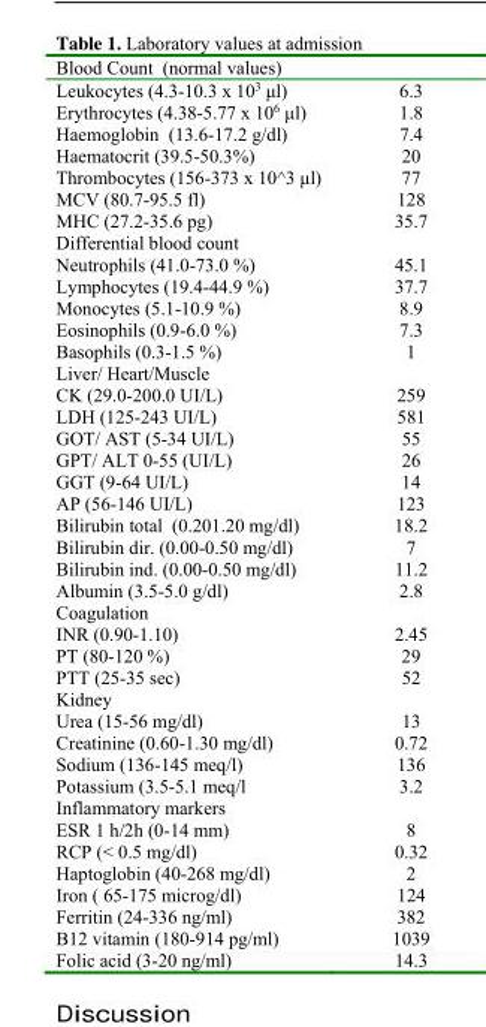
<table><thead><tr><td>Blood Count (normal values)</td><td></td></tr></thead><tbody><tr><td>Leukocytes (4.3-10.3 x 10<sup>3</sup> μl)</td><td>6.3</td></tr><tr><td>Erythrocytes (4.38-5.77 x 10<sup>6</sup> μl)</td><td>1.8</td></tr><tr><td>Haemoglobin (13.6-17.2 g/dl)</td><td>7.4</td></tr><tr><td>Haematocrit (39.5-50.3%)</td><td>20</td></tr><tr><td>Thrombocytes (156-373 x 10^3 μl)</td><td>77</td></tr><tr><td>MCV (80.7-95.5 fl)</td><td>128</td></tr><tr><td>MHC (27.2-35.6 pg)</td><td>35.7</td></tr><tr><td colspan="2">Differential blood count</td></tr><tr><td>Neutrophils (41.0-73.0 %)</td><td>45.1</td></tr><tr><td>Lymphocytes (19.4-44.9 %)</td><td>37.7</td></tr><tr><td>Monocytes (5.1-10.9 %)</td><td>8.9</td></tr><tr><td>Eosinophils (0.9-6.0 %)</td><td>7.3</td></tr><tr><td>Basophils (0.3-1.5 %)</td><td>1</td></tr><tr><td colspan="2">Liver/ Heart/Muscle</td></tr><tr><td>CK (29.0-200.0 UI/L)</td><td>259</td></tr><tr><td>LDH (125-243 UI/L)</td><td>581</td></tr><tr><td>GOT/ AST (5-34 UI/L)</td><td>55</td></tr><tr><td>GPT/ ALT 0-55 (UI/L)</td><td>26</td></tr><tr><td>GGT (9-64 UI/L)</td><td>14</td></tr><tr><td>AP (56-146 UI/L)</td><td>123</td></tr><tr><td>Bilirubin total (0.201.20 mg/dl)</td><td>18.2</td></tr><tr><td>Bilirubin dir. (0.00-0.50 mg/dl)</td><td>7</td></tr><tr><td>Bilirubin ind. (0.00-0.50 mg/dl)</td><td>11.2</td></tr><tr><td>Albumin (3.5-5.0 g/dl)</td><td>2.8</td></tr><tr><td colspan="2">Coagulation</td></tr><tr><td>INR (0.90-1.10)</td><td>2.45</td></tr><tr><td>PT (80-120 %)</td><td>29</td></tr><tr><td>PTT (25-35 sec)</td><td>52</td></tr><tr><td colspan="2">Kidney</td></tr><tr><td>Urea (15-56 mg/dl)</td><td>13</td></tr><tr><td>Creatinine (0.60-1.30 mg/dl)</td><td>0.72</td></tr><tr><td>Sodium (136-145 meq/l)</td><td>136</td></tr><tr><td>Potassium (3.5-5.1 meq/l</td><td>3.2</td></tr><tr><td colspan="2">Inflammatory markers</td></tr><tr><td>ESR 1 h/2h (0-14 mm)</td><td>8</td></tr><tr><td>RCP (&lt; 0.5 mg/dl)</td><td>0.32</td></tr><tr><td>Haptoglobin (40-268 mg/dl)</td><td>2</td></tr><tr><td>Iron ( 65-175 microg/dl)</td><td>124</td></tr><tr><td>Ferritin (24-336 ng/ml)</td><td>382</td></tr><tr><td>B12 vitamin (180-914 pg/ml)</td><td>1039</td></tr><tr><td>Folic acid (3-20 ng/ml)</td><td>14.3</td></tr></tbody></table>